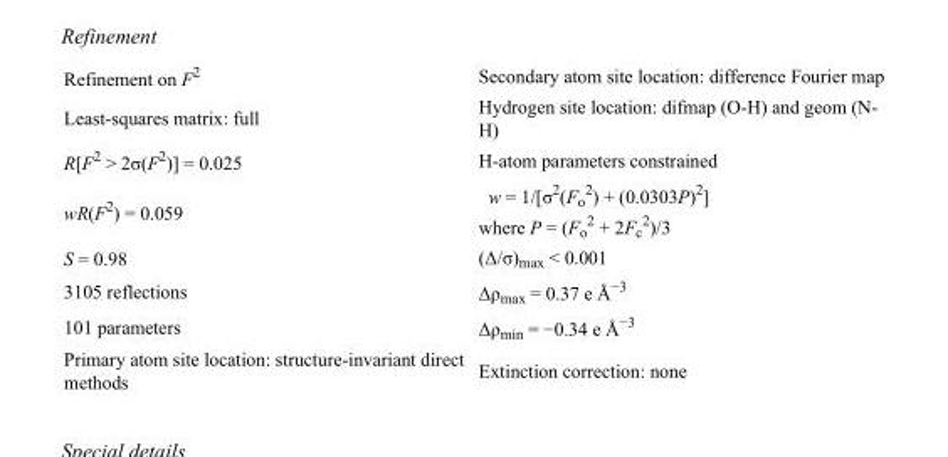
<table><tbody><tr><td>Refinement on F<sup>2</sup></td><td>Secondary atom site location: difference Fourier map</td></tr><tr><td>Least-squares matrix: full</td><td>Hydrogen site location: difmap (O-H) and geom (N- H)</td></tr><tr><td>R[F<sup>2</sup> &gt; 2σ(F<sup>2</sup>)] = 0.025</td><td>H-atom parameters constrained</td></tr><tr><td>wR(F<sup>2</sup>) = 0.059</td><td>w = 1/[σ<sup>2</sup>(F<sub>o</sub> <sup>2</sup>) + (0.0303P)<sup>2</sup>] where P = (F<sub>o</sub> <sup>2</sup> + 2F<sub>c</sub> <sup>2</sup>)/3</td></tr><tr><td>S = 0.98</td><td>(Δ/σ)<sub>max</sub> &lt; 0.001</td></tr><tr><td>3105 reflections</td><td>Δρ<sub>max</sub> = 0.37 e Å<sup>−3</sup></td></tr><tr><td>101 parameters</td><td>Δρ<sub>min</sub> = −0.34 e Å<sup>−3</sup></td></tr><tr><td>Primary atom site location: structure-invariant direct methods</td><td>Extinction correction: none</td></tr></tbody></table>